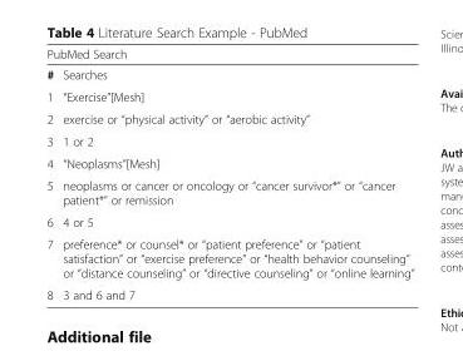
<table><thead><tr><td colspan="2">PubMed Search</td></tr><tr><td>#</td><td>Searches</td></tr></thead><tbody><tr><td>1</td><td>“Exercise”[Mesh]</td></tr><tr><td>2</td><td>exercise or “physical activity” or “aerobic activity”</td></tr><tr><td>3</td><td>1 or 2</td></tr><tr><td>4</td><td>“Neoplasms”[Mesh]</td></tr><tr><td>5</td><td>neoplasms or cancer or oncology or “cancer survivor*” or “cancer patient*” or remission</td></tr><tr><td>6</td><td>4 or 5</td></tr><tr><td>7</td><td>preference* or counsel* or “patient preference” or “patient satisfaction” or “exercise preference” or “health behavior counseling” or “distance counseling” or “directive counseling” or “online learning”</td></tr><tr><td>8</td><td>3 and 6 and 7</td></tr></tbody></table>